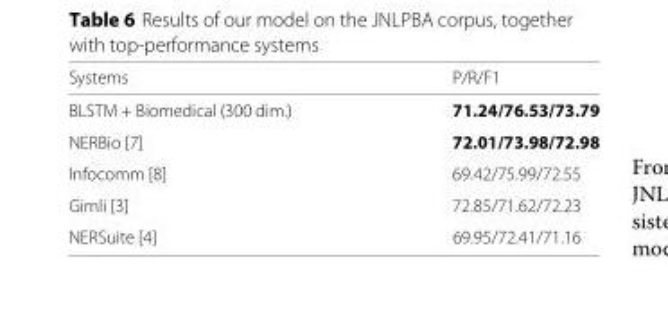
<table><thead><tr><td>Systems</td><td>P/R/F1</td></tr></thead><tbody><tr><td>BLSTM + Biomedical (300 dim.)</td><td>71.24/76.53/73.79</td></tr><tr><td>NERBio [7]</td><td>72.01/73.98/72.98</td></tr><tr><td>Infocomm [8]</td><td>69.42/75.99/72.55</td></tr><tr><td>Gimli [3]</td><td>72.85/71.62/72.23</td></tr><tr><td>NERSuite [4]</td><td>69.95/72.41/71.16</td></tr></tbody></table>